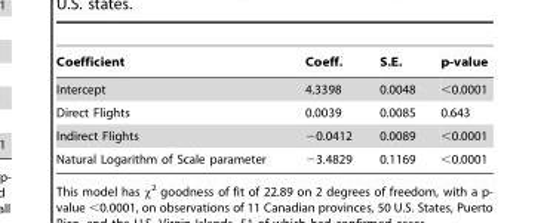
<table><thead><tr><td>Coefficient</td><td>Coeff.</td><td>S.E.</td><td>p-value</td></tr></thead><tbody><tr><td>Intercept</td><td>4.3398</td><td>0.0048</td><td>&lt;0.0001</td></tr><tr><td>Direct Flights</td><td>0.0039</td><td>0.0085</td><td>0.643</td></tr><tr><td>Indirect Flights</td><td>−0.0412</td><td>0.0089</td><td>&lt;0.0001</td></tr><tr><td>Natural Logarithm of Scale parameter</td><td>−3.4829</td><td>0.1169</td><td>&lt;0.0001</td></tr></tbody></table>